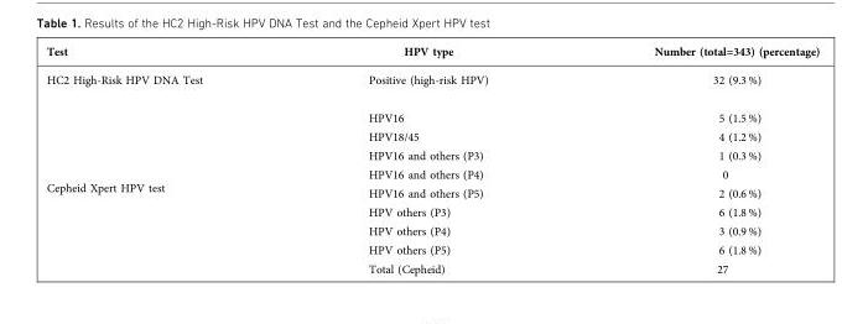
<table><thead><tr><td>Test</td><td>HPV type</td><td>Number (total=343) (percentage)</td></tr></thead><tbody><tr><td>HC2 High-Risk HPV DNA Test</td><td>Positive (high-risk HPV)</td><td>32 (9.3 %)</td></tr><tr><td rowspan="9">Cepheid Xpert HPV test</td><td>HPV16</td><td>5 (1.5 %)</td></tr><tr><td>HPV18/45</td><td>4 (1.2 %)</td></tr><tr><td>HPV16 and others (P3)</td><td>1 (0.3 %)</td></tr><tr><td>HPV16 and others (P4)</td><td>0</td></tr><tr><td>HPV16 and others (P5)</td><td>2 (0.6 %)</td></tr><tr><td>HPV others (P3)</td><td>6 (1.8 %)</td></tr><tr><td>HPV others (P4)</td><td>3 (0.9 %)</td></tr><tr><td>HPV others (P5)</td><td>6 (1.8 %)</td></tr><tr><td>Total (Cepheid)</td><td>27</td></tr></tbody></table>